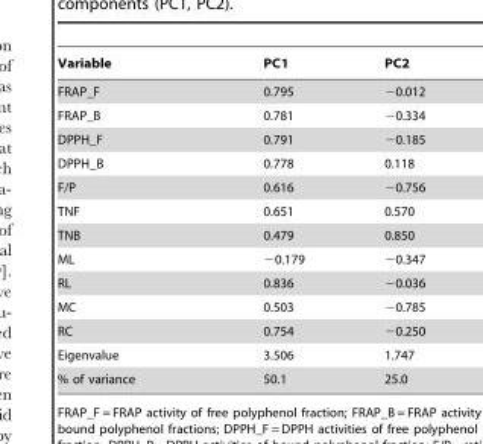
<table><thead><tr><td>Variable</td><td>PC1</td><td>PC2</td></tr></thead><tbody><tr><td>FRAP_F</td><td>0.795</td><td>−0.012</td></tr><tr><td>FRAP_B</td><td>0.781</td><td>−0.334</td></tr><tr><td>DPPH_F</td><td>0.791</td><td>−0.185</td></tr><tr><td>DPPH_B</td><td>0.778</td><td>0.118</td></tr><tr><td>F/P</td><td>0.616</td><td>−0.756</td></tr><tr><td>TNF</td><td>0.651</td><td>0.570</td></tr><tr><td>TNB</td><td>0.479</td><td>0.850</td></tr><tr><td>ML</td><td>−0.179</td><td>−0.347</td></tr><tr><td>RL</td><td>0.836</td><td>−0.036</td></tr><tr><td>MC</td><td>0.503</td><td>−0.785</td></tr><tr><td>RC</td><td>0.754</td><td>−0.250</td></tr><tr><td>Eigenvalue</td><td>3.506</td><td>1.747</td></tr><tr><td>% of variance</td><td>50.1</td><td>25.0</td></tr></tbody></table>